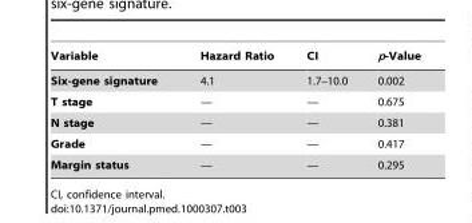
<table><thead><tr><td>Variable</td><td>Hazard Ratio</td><td>CI</td><td>p-Value</td></tr></thead><tbody><tr><td>Six-gene signature</td><td>4.1</td><td>1.7–10.0</td><td>0.002</td></tr><tr><td>T stage</td><td>—</td><td>—</td><td>0.675</td></tr><tr><td>N stage</td><td>—</td><td>—</td><td>0.381</td></tr><tr><td>Grade</td><td>—</td><td>—</td><td>0.417</td></tr><tr><td>Margin status</td><td>—</td><td>—</td><td>0.295</td></tr></tbody></table>